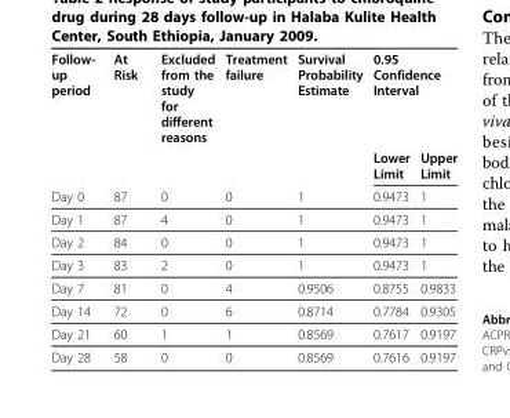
<table><thead><tr><td rowspan="3">Follow- up period Day 0</td><td rowspan="3">At Risk 87</td><td rowspan="3">Excluded from the study for different reasons 0</td><td rowspan="3">Treatment failure 0</td><td rowspan="3">Survival Probability Estimate 1</td><td colspan="2">0.95 Confidence Interval</td></tr><tr><td rowspan="2">Lower Limit 0.9473</td><td rowspan="2">Upper Limit 1</td></tr><tr></tr></thead><tbody><tr><td>Day 1</td><td>87</td><td>4</td><td>0</td><td>1</td><td>0.9473</td><td>1</td></tr><tr><td>Day 2</td><td>84</td><td>0</td><td>0</td><td>1</td><td>0.9473</td><td>1</td></tr><tr><td>Day 3</td><td>83</td><td>2</td><td>0</td><td>1</td><td>0.9473</td><td>1</td></tr><tr><td>Day 7</td><td>81</td><td>0</td><td>4</td><td>0.9506</td><td>0.8755</td><td>0.9833</td></tr><tr><td>Day 14</td><td>72</td><td>0</td><td>6</td><td>0.8714</td><td>0.7784</td><td>0.9305</td></tr><tr><td>Day 21</td><td>60</td><td>1</td><td>1</td><td>0.8569</td><td>0.7617</td><td>0.9197</td></tr><tr><td>Day 28</td><td>58</td><td>0</td><td>0</td><td>0.8569</td><td>0.7616</td><td>0.9197</td></tr></tbody></table>